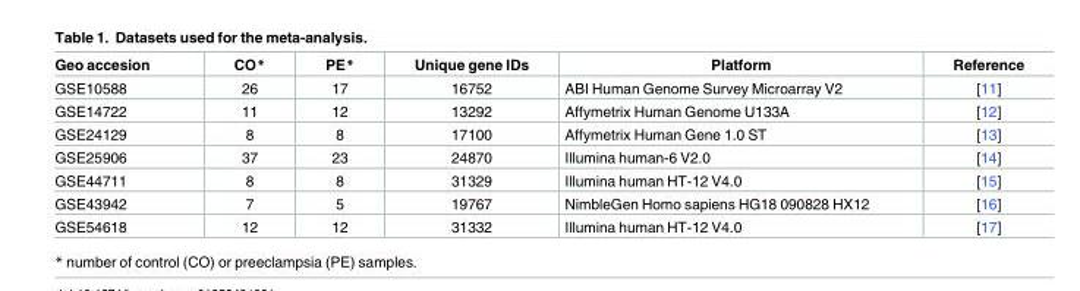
<table><thead><tr><td>Geo accesion</td><td>CO*</td><td>PE*</td><td>Unique gene IDs</td><td>Platform</td><td>Reference</td></tr></thead><tbody><tr><td>GSE10588</td><td>26</td><td>17</td><td>16752</td><td>ABI Human Genome Survey Microarray V2</td><td>[11]</td></tr><tr><td>GSE14722</td><td>11</td><td>12</td><td>13292</td><td>Affymetrix Human Genome U133A</td><td>[12]</td></tr><tr><td>GSE24129</td><td>8</td><td>8</td><td>17100</td><td>Affymetrix Human Gene 1.0 ST</td><td>[13]</td></tr><tr><td>GSE25906</td><td>37</td><td>23</td><td>24870</td><td>Illumina human-6 V2.0</td><td>[14]</td></tr><tr><td>GSE44711</td><td>8</td><td>8</td><td>31329</td><td>Illumina human HT-12 V4.0</td><td>[15]</td></tr><tr><td>GSE43942</td><td>7</td><td>5</td><td>19767</td><td>NimbleGen Homo sapiens HG18 090828 HX12</td><td>[16]</td></tr><tr><td>GSE54618</td><td>12</td><td>12</td><td>31332</td><td>Illumina human HT-12 V4.0</td><td>[17]</td></tr></tbody></table>